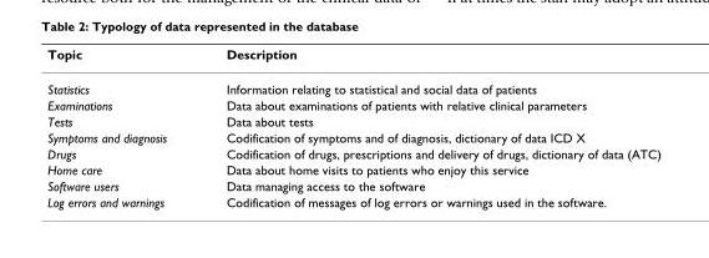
<table><thead><tr><td>Topic</td><td>Description</td></tr></thead><tbody><tr><td>Statistics</td><td>Information relating to statistical and social data of patients</td></tr><tr><td>Examinations</td><td>Data about examinations of patients with relative clinical parameters</td></tr><tr><td>Tests</td><td>Data about tests</td></tr><tr><td>Symptoms and diagnosis</td><td>Codification of symptoms and of diagnosis, dictionary of data ICD X</td></tr><tr><td>Drugs</td><td>Codification of drugs, prescriptions and delivery of drugs, dictionary of data (ATC)</td></tr><tr><td>Home care</td><td>Data about home visits to patients who enjoy this service</td></tr><tr><td>Software users</td><td>Data managing access to the software</td></tr><tr><td>Log errors and warnings</td><td>Codification of messages of log errors or warnings used in the software.</td></tr></tbody></table>